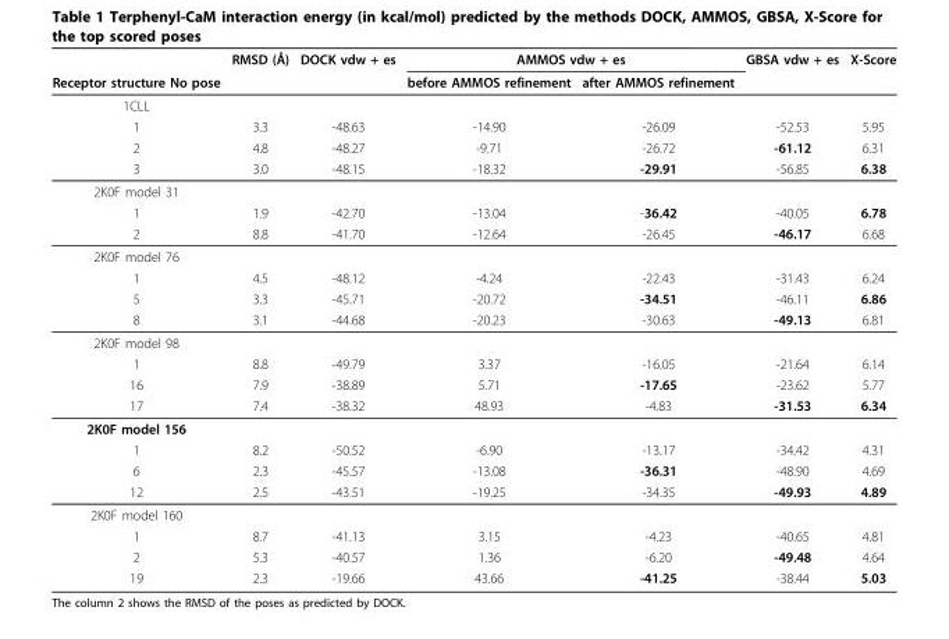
<table><thead><tr><td rowspan="2">Receptor structure No pose</td><td rowspan="2">RMSD (Å)</td><td rowspan="2">DOCK vdw + es</td><td colspan="2">AMMOS vdw + es</td><td rowspan="2">GBSA vdw + es</td><td rowspan="2">X-Score</td></tr><tr><td>before AMMOS refinement</td><td>after AMMOS refinement</td></tr></thead><tbody><tr><td colspan="7">1CLL</td></tr><tr><td>1</td><td>3.3</td><td>-48.63</td><td>-14.90</td><td>-26.09</td><td>-52.53</td><td>5.95</td></tr><tr><td>2</td><td>4.8</td><td>-48.27</td><td>-9.71</td><td>-26.72</td><td>-61.12</td><td>6.31</td></tr><tr><td>3</td><td>3.0</td><td>-48.15</td><td>-18.32</td><td>-29.91</td><td>-56.85</td><td>6.38</td></tr><tr><td colspan="7">2K0F model 31</td></tr><tr><td>1</td><td>1.9</td><td>-42.70</td><td>-13.04</td><td>-36.42</td><td>-40.05</td><td>6.78</td></tr><tr><td>2</td><td>8.8</td><td>-41.70</td><td>-12.64</td><td>-26.45</td><td>-46.17</td><td>6.68</td></tr><tr><td colspan="7">2K0F model 76</td></tr><tr><td>1</td><td>4.5</td><td>-48.12</td><td>-4.24</td><td>-22.43</td><td>-31.43</td><td>6.24</td></tr><tr><td>5</td><td>3.3</td><td>-45.71</td><td>-20.72</td><td>-34.51</td><td>-46.11</td><td>6.86</td></tr><tr><td>8</td><td>3.1</td><td>-44.68</td><td>-20.23</td><td>-30.63</td><td>-49.13</td><td>6.81</td></tr><tr><td colspan="7">2K0F model 98</td></tr><tr><td>1</td><td>8.8</td><td>-49.79</td><td>3.37</td><td>-16.05</td><td>-21.64</td><td>6.14</td></tr><tr><td>16</td><td>7.9</td><td>-38.89</td><td>5.71</td><td>-17.65</td><td>-23.62</td><td>5.77</td></tr><tr><td>17</td><td>7.4</td><td>-38.32</td><td>48.93</td><td>-4.83</td><td>-31.53</td><td>6.34</td></tr><tr><td colspan="7">2K0F model 156</td></tr><tr><td>1</td><td>8.2</td><td>-50.52</td><td>-6.90</td><td>-13.17</td><td>-34.42</td><td>4.31</td></tr><tr><td>6</td><td>2.3</td><td>-45.57</td><td>-13.08</td><td>-36.31</td><td>-48.90</td><td>4.69</td></tr><tr><td>12</td><td>2.5</td><td>-43.51</td><td>-19.25</td><td>-34.35</td><td>-49.93</td><td>4.89</td></tr><tr><td colspan="7">2K0F model 160</td></tr><tr><td>1</td><td>8.7</td><td>-41.13</td><td>3.15</td><td>-4.23</td><td>-40.65</td><td>4.81</td></tr><tr><td>2</td><td>5.3</td><td>-40.57</td><td>1.36</td><td>-6.20</td><td>-49.48</td><td>4.64</td></tr><tr><td>19</td><td>2.3</td><td>-19.66</td><td>43.66</td><td>-41.25</td><td>-38.44</td><td>5.03</td></tr></tbody></table>